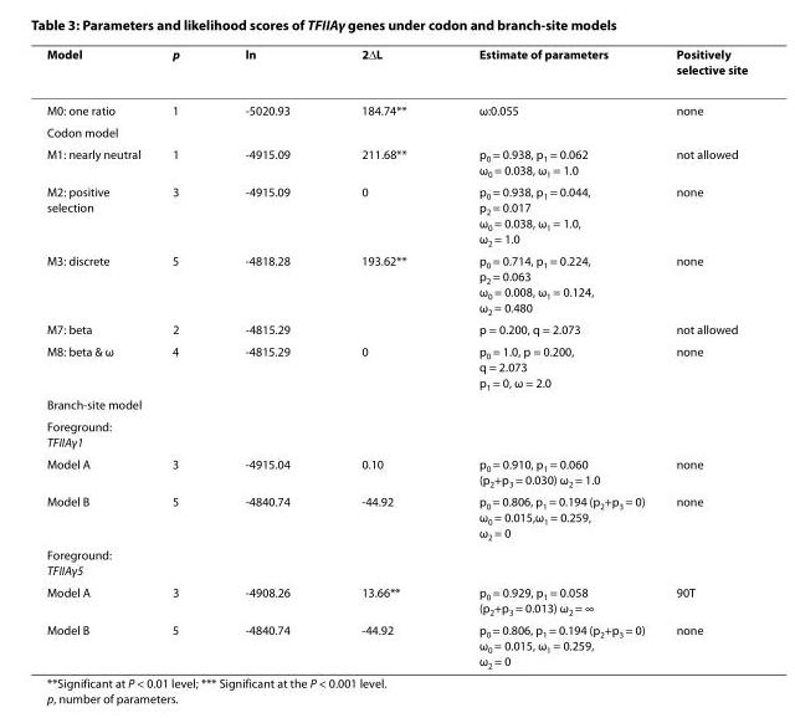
<table><thead><tr><td>Model</td><td>p</td><td>ln</td><td>2ΔL</td><td>Estimate of parameters</td><td>Positively selective site</td></tr></thead><tbody><tr><td>M0: one ratio</td><td>1</td><td>-5020.93</td><td>184.74**</td><td>ω:0.055</td><td>none</td></tr><tr><td colspan="6">Codon model</td></tr><tr><td>M1: nearly neutral</td><td>1</td><td>-4915.09</td><td>211.68**</td><td>p<sub>0</sub> = 0.938, p<sub>1</sub> = 0.062 ω<sub>0</sub> = 0.038, ω<sub>1</sub> = 1.0</td><td>not allowed</td></tr><tr><td>M2: positive selection</td><td>3</td><td>-4915.09</td><td>0</td><td>p<sub>0</sub> = 0.938, p<sub>1</sub> = 0.044, p<sub>2</sub> = 0.017 ω<sub>0</sub> = 0.038, ω<sub>1</sub> = 1.0, ω<sub>2</sub> = 1.0</td><td>none</td></tr><tr><td>M3: discrete</td><td>5</td><td>-4818.28</td><td>193.62**</td><td>p<sub>0</sub> = 0.714, p<sub>1</sub> = 0.224, p<sub>2</sub> = 0.063 ω<sub>0</sub> = 0.008, ω<sub>1</sub> = 0.124, ω<sub>2</sub> = 0.480</td><td>none</td></tr><tr><td>M7: beta</td><td>2</td><td>-4815.29</td><td></td><td>p = 0.200, q = 2.073</td><td>not allowed</td></tr><tr><td>M8: beta &amp; ω</td><td>4</td><td>-4815.29</td><td>0</td><td>p<sub>0</sub> = 1.0, p = 0.200, q = 2.073 p<sub>1</sub> = 0, ω = 2.0</td><td>none</td></tr><tr><td colspan="6">Branch-site model</td></tr><tr><td colspan="6">Foreground: TFIIAγ1</td></tr><tr><td>Model A</td><td>3</td><td>-4915.04</td><td>0.10</td><td>p<sub>0</sub> = 0.910, p<sub>1</sub> = 0.060 (p<sub>2</sub>+p<sub>3</sub> = 0.030) ω<sub>2</sub> = 1.0</td><td>none</td></tr><tr><td>Model B</td><td>5</td><td>-4840.74</td><td>-44.92</td><td>p<sub>0</sub> = 0.806, p<sub>1</sub> = 0.194 (p<sub>2</sub>+p<sub>3</sub> = 0) ω<sub>0</sub> = 0.015,ω<sub>1</sub> = 0.259, ω<sub>2</sub> = 0</td><td>none</td></tr><tr><td colspan="6">Foreground: TFIIAγ5</td></tr><tr><td>Model A</td><td>3</td><td>-4908.26</td><td>13.66**</td><td>p<sub>0</sub> = 0.929, p<sub>1</sub> = 0.058 (p<sub>2</sub>+p<sub>3</sub> = 0.013) ω<sub>2</sub> = ∞</td><td>90T</td></tr><tr><td>Model B</td><td>5</td><td>-4840.74</td><td>-44.92</td><td>p<sub>0</sub> = 0.806, p<sub>1</sub> = 0.194 (p<sub>2</sub>+p<sub>3</sub> = 0) ω<sub>0</sub> = 0.015, ω<sub>1</sub> = 0.259, ω<sub>2</sub> = 0</td><td>none</td></tr></tbody></table>